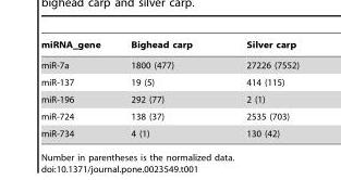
<table><thead><tr><td>miRNA__gene</td><td>Bighead carp</td><td>Silver carp</td></tr></thead><tbody><tr><td>miR-7a</td><td>1800 (477)</td><td>27226 (7552)</td></tr><tr><td>miR-137</td><td>19 (5)</td><td>414 (115)</td></tr><tr><td>miR-196</td><td>292 (77)</td><td>2 (1)</td></tr><tr><td>miR-724</td><td>138 (37)</td><td>2535 (703)</td></tr><tr><td>miR-734</td><td>4 (1)</td><td>130 (42)</td></tr></tbody></table>